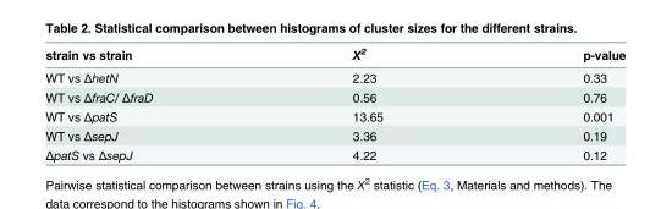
<table><thead><tr><td>strain vs strain</td><td>X<sup>2</sup></td><td>p-value</td></tr></thead><tbody><tr><td>WT vs ΔhetN</td><td>2.23</td><td>0.33</td></tr><tr><td>WT vs ΔfraC/ ΔfraD</td><td>0.56</td><td>0.76</td></tr><tr><td>WT vs ΔpatS</td><td>13.65</td><td>0.001</td></tr><tr><td>WT vs ΔsepJ</td><td>3.36</td><td>0.19</td></tr><tr><td>ΔpatS vs ΔsepJ</td><td>4.22</td><td>0.12</td></tr></tbody></table>